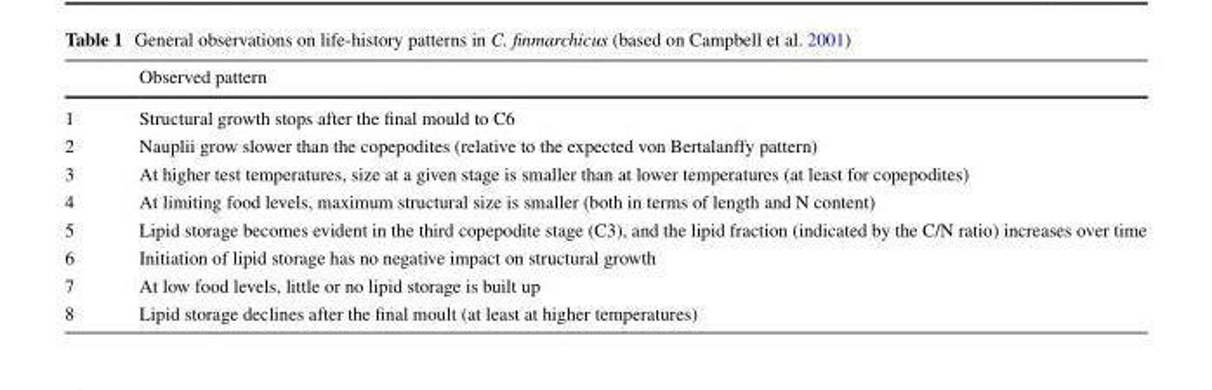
<table><thead><tr><td></td><td>Observed pattern</td></tr></thead><tbody><tr><td>1</td><td>Structural growth stops after the final mould to C6</td></tr><tr><td>2</td><td>Nauplii grow slower than the copepodites (relative to the expected von Bertalanffy pattern)</td></tr><tr><td>3</td><td>At higher test temperatures, size at a given stage is smaller than at lower temperatures (at least for copepodites)</td></tr><tr><td>4</td><td>At limiting food levels, maximum structural size is smaller (both in terms of length and N content)</td></tr><tr><td>5</td><td>Lipid storage becomes evident in the third copepodite stage (C3), and the lipid fraction (indicated by the C/N ratio) increases over time</td></tr><tr><td>6</td><td>Initiation of lipid storage has no negative impact on structural growth</td></tr><tr><td>7</td><td>At low food levels, little or no lipid storage is built up</td></tr><tr><td>8</td><td>Lipid storage declines after the final moult (at least at higher temperatures)</td></tr></tbody></table>